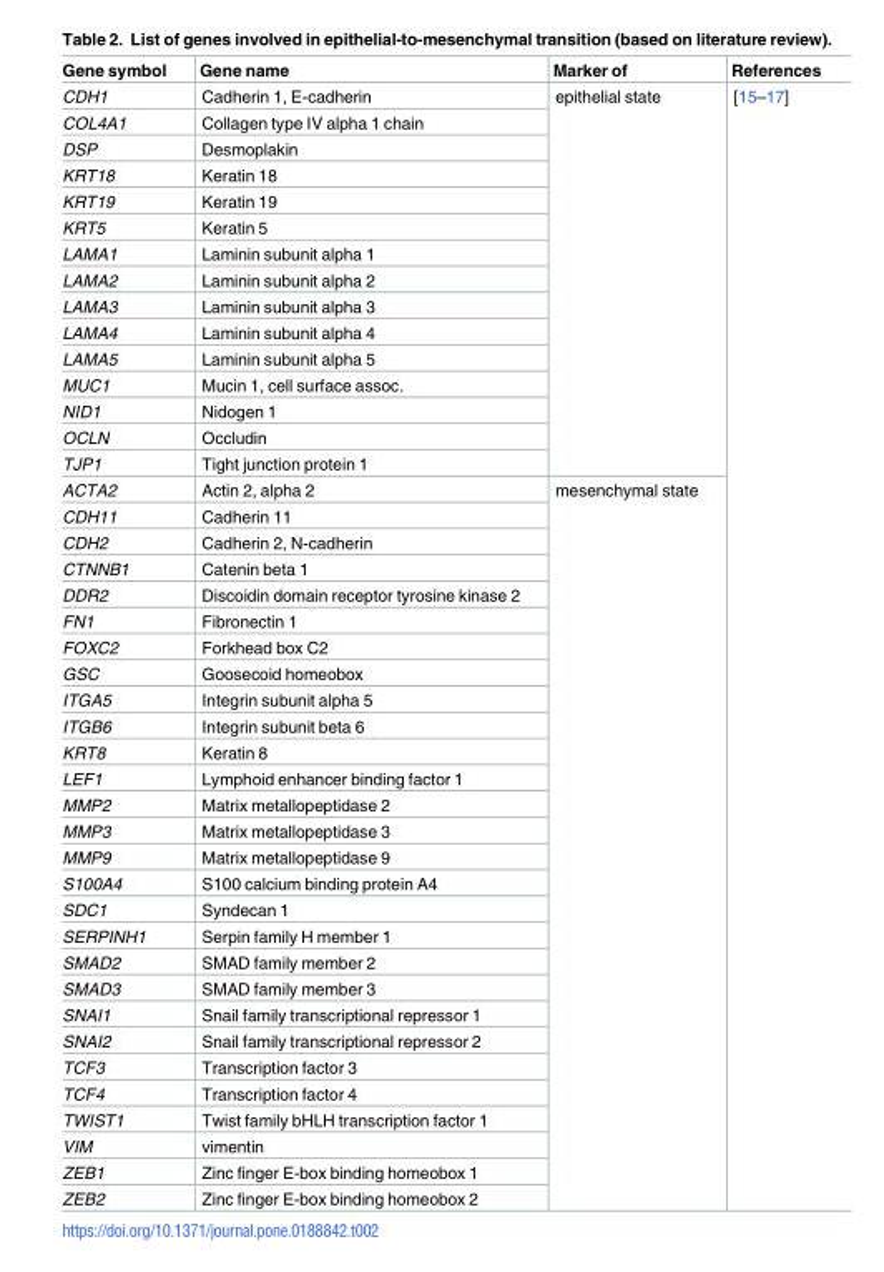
<table><thead><tr><td>Gene symbol</td><td>Gene name</td><td>Marker of</td><td>References</td></tr></thead><tbody><tr><td>CDH1</td><td>Cadherin 1, E-cadherin</td><td rowspan="15">epithelial state</td><td rowspan="43">[15–17]</td></tr><tr><td>COL4A1</td><td>Collagen type IV alpha 1 chain</td></tr><tr><td>DSP</td><td>Desmoplakin</td></tr><tr><td>KRT18</td><td>Keratin 18</td></tr><tr><td>KRT19</td><td>Keratin 19</td></tr><tr><td>KRT5</td><td>Keratin 5</td></tr><tr><td>LAMA1</td><td>Laminin subunit alpha 1</td></tr><tr><td>LAMA2</td><td>Laminin subunit alpha 2</td></tr><tr><td>LAMA3</td><td>Laminin subunit alpha 3</td></tr><tr><td>LAMA4</td><td>Laminin subunit alpha 4</td></tr><tr><td>LAMA5</td><td>Laminin subunit alpha 5</td></tr><tr><td>MUC1</td><td>Mucin 1, cell surface assoc.</td></tr><tr><td>NID1</td><td>Nidogen 1</td></tr><tr><td>OCLN</td><td>Occludin</td></tr><tr><td>TJP1</td><td>Tight junction protein 1</td></tr><tr><td>ACTA2</td><td>Actin 2, alpha 2</td><td rowspan="28">mesenchymal state</td></tr><tr><td>CDH11</td><td>Cadherin 11</td></tr><tr><td>CDH2</td><td>Cadherin 2, N-cadherin</td></tr><tr><td>CTNNB1</td><td>Catenin beta 1</td></tr><tr><td>DDR2</td><td>Discoidin domain receptor tyrosine kinase 2</td></tr><tr><td>FN1</td><td>Fibronectin 1</td></tr><tr><td>FOXC2</td><td>Forkhead box C2</td></tr><tr><td>GSC</td><td>Goosecoid homeobox</td></tr><tr><td>ITGA5</td><td>Integrin subunit alpha 5</td></tr><tr><td>ITGB6</td><td>Integrin subunit beta 6</td></tr><tr><td>KRT8</td><td>Keratin 8</td></tr><tr><td>LEF1</td><td>Lymphoid enhancer binding factor 1</td></tr><tr><td>MMP2</td><td>Matrix metallopeptidase 2</td></tr><tr><td>MMP3</td><td>Matrix metallopeptidase 3</td></tr><tr><td>MMP9</td><td>Matrix metallopeptidase 9</td></tr><tr><td>S100A4</td><td>S100 calcium binding protein A4</td></tr><tr><td>SDC1</td><td>Syndecan 1</td></tr><tr><td>SERPINH1</td><td>Serpin family H member 1</td></tr><tr><td>SMAD2</td><td>SMAD family member 2</td></tr><tr><td>SMAD3</td><td>SMAD family member 3</td></tr><tr><td>SNAI1</td><td>Snail family transcriptional repressor 1</td></tr><tr><td>SNAI2</td><td>Snail family transcriptional repressor 2</td></tr><tr><td>TCF3</td><td>Transcription factor 3</td></tr><tr><td>TCF4</td><td>Transcription factor 4</td></tr><tr><td>TWIST1</td><td>Twist family bHLH transcription factor 1</td></tr><tr><td>VIM</td><td>vimentin</td></tr><tr><td>ZEB1</td><td>Zinc finger E-box binding homeobox 1</td></tr><tr><td>ZEB2</td><td>Zinc finger E-box binding homeobox 2</td></tr></tbody></table>